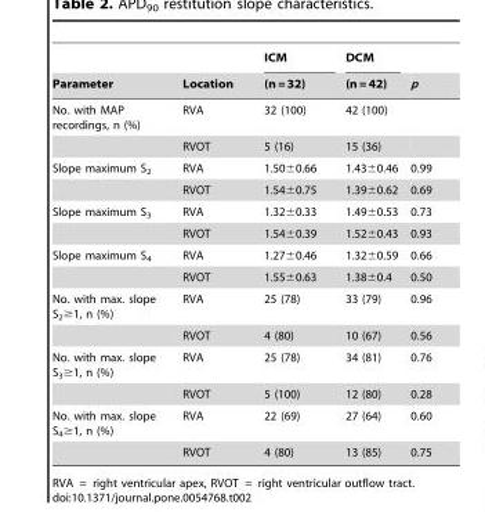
<table><thead><tr><td rowspan="2">Parameter</td><td rowspan="2">Location</td><td rowspan="2">ICM (n = 32)</td><td rowspan="2">DCM (n = 42)</td><td rowspan="2">p</td></tr><tr></tr></thead><tbody><tr><td rowspan="2">No. with MAP recordings, n (%)</td><td>RVA</td><td>32 (100)</td><td>42 (100)</td><td></td></tr><tr><td>RVOT</td><td>5 (16)</td><td>15 (36)</td><td></td></tr><tr><td rowspan="2">Slope maximum S<sub>2</sub></td><td>RVA</td><td>1.50±0.66</td><td>1.43±0.46</td><td>0.99</td></tr><tr><td>RVOT</td><td>1.54±0.75</td><td>1.39±0.62</td><td>0.69</td></tr><tr><td rowspan="2">Slope maximum S<sub>3</sub></td><td>RVA</td><td>1.32±0.33</td><td>1.49±0.53</td><td>0.73</td></tr><tr><td>RVOT</td><td>1.54±0.39</td><td>1.52±0.43</td><td>0.93</td></tr><tr><td rowspan="2">Slope maximum S<sub>4</sub></td><td>RVA</td><td>1.27±0.46</td><td>1.32±0.59</td><td>0.66</td></tr><tr><td>RVOT</td><td>1.55±0.63</td><td>1.38±0.4</td><td>0.50</td></tr><tr><td rowspan="2">No. with max. slope S<sub>2</sub>≥1, n (%)</td><td>RVA</td><td>25 (78)</td><td>33 (79)</td><td>0.96</td></tr><tr><td>RVOT</td><td>4 (80)</td><td>10 (67)</td><td>0.56</td></tr><tr><td rowspan="2">No. with max. slope S<sub>3</sub>≥1, n (%)</td><td>RVA</td><td>25 (78)</td><td>34 (81)</td><td>0.76</td></tr><tr><td>RVOT</td><td>5 (100)</td><td>12 (80)</td><td>0.28</td></tr><tr><td rowspan="2">No. with max. slope S<sub>4</sub>≥1, n (%)</td><td>RVA</td><td>22 (69)</td><td>27 (64)</td><td>0.60</td></tr><tr><td>RVOT</td><td>4 (80)</td><td>13 (85)</td><td>0.75</td></tr></tbody></table>